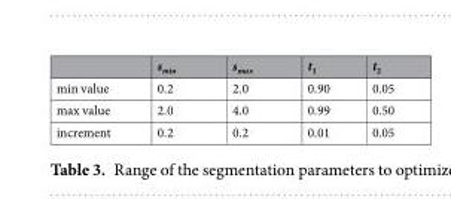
<table><thead><tr><td></td><td>s<sub>min</sub></td><td>s<sub>max</sub></td><td>t<sub>1</sub></td><td>t<sub>2</sub></td></tr></thead><tbody><tr><td>min value</td><td>0.2</td><td>2.0</td><td>0.90</td><td>0.05</td></tr><tr><td>max value</td><td>2.0</td><td>4.0</td><td>0.99</td><td>0.50</td></tr><tr><td>increment</td><td>0.2</td><td>0.2</td><td>0.01</td><td>0.05</td></tr></tbody></table>